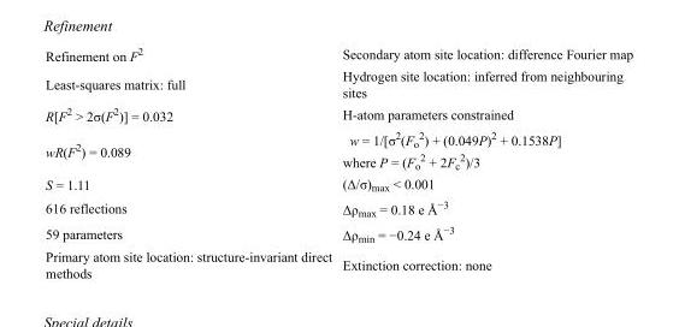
<table><tbody><tr><td>Refinement on F<sup>2</sup></td><td>Secondary atom site location: difference Fourier map</td></tr><tr><td>Least-squares matrix: full</td><td>Hydrogen site location: inferred from neighbouring sites</td></tr><tr><td>R[F<sup>2</sup> &gt; 2σ(F<sup>2</sup>)] = 0.032</td><td>H-atom parameters constrained</td></tr><tr><td>wR(F<sup>2</sup>) = 0.089</td><td>w = 1/[σ<sup>2</sup>(F<sub>o</sub> <sup>2</sup>) + (0.049P)<sup>2</sup> + 0.1538P] where P = (F<sub>o</sub> <sup>2</sup> + 2F<sub>c</sub> <sup>2</sup>)/3</td></tr><tr><td>S = 1.11</td><td>(Δ/σ)<sub>max</sub> &lt; 0.001</td></tr><tr><td>616 reflections</td><td>Δρ<sub>max</sub> = 0.18 e Å<sup>−3</sup></td></tr><tr><td>59 parameters</td><td>Δρ<sub>min</sub> = −0.24 e Å<sup>−3</sup></td></tr><tr><td>Primary atom site location: structure-invariant direct methods</td><td>Extinction correction: none</td></tr></tbody></table>